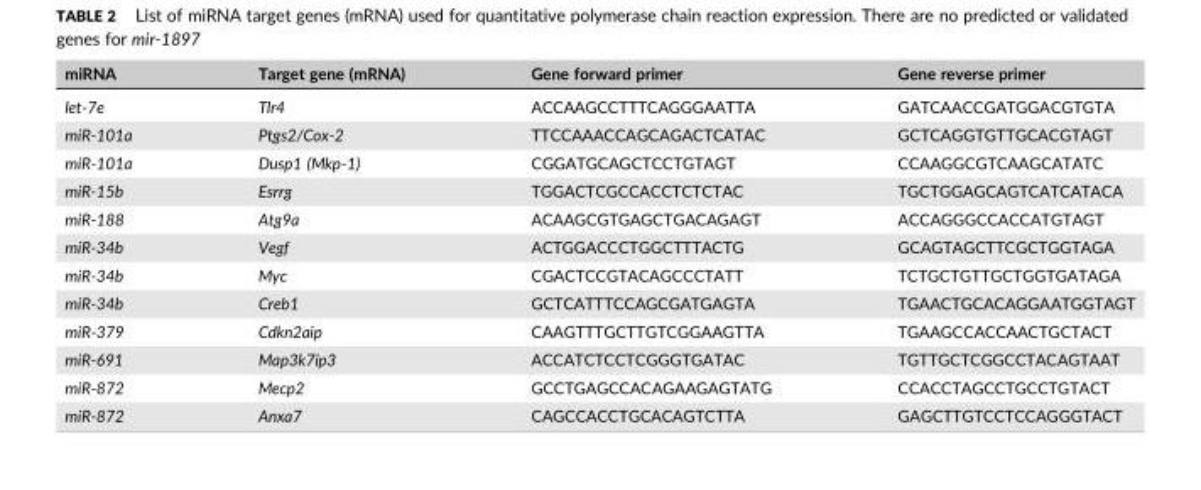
<table><thead><tr><td>miRNA</td><td>Target gene (mRNA)</td><td>Gene forward primer</td><td>Gene reverse primer</td></tr></thead><tbody><tr><td>let‐7e</td><td>Tlr4</td><td>ACCAAGCCTTTCAGGGAATTA</td><td>GATCAACCGATGGACGTGTA</td></tr><tr><td>miR‐101a</td><td>Ptgs2/Cox‐2</td><td>TTCCAAACCAGCAGACTCATAC</td><td>GCTCAGGTGTTGCACGTAGT</td></tr><tr><td>miR‐101a</td><td>Dusp1 (Mkp‐1)</td><td>CGGATGCAGCTCCTGTAGT</td><td>CCAAGGCGTCAAGCATATC</td></tr><tr><td>miR‐15b</td><td>Esrrg</td><td>TGGACTCGCCACCTCTCTAC</td><td>TGCTGGAGCAGTCATCATACA</td></tr><tr><td>miR‐188</td><td>Atg9a</td><td>ACAAGCGTGAGCTGACAGAGT</td><td>ACCAGGGCCACCATGTAGT</td></tr><tr><td>miR‐34b</td><td>Vegf</td><td>ACTGGACCCTGGCTTTACTG</td><td>GCAGTAGCTTCGCTGGTAGA</td></tr><tr><td>miR‐34b</td><td>Myc</td><td>CGACTCCGTACAGCCCTATT</td><td>TCTGCTGTTGCTGGTGATAGA</td></tr><tr><td>miR‐34b</td><td>Creb1</td><td>GCTCATTTCCAGCGATGAGTA</td><td>TGAACTGCACAGGAATGGTAGT</td></tr><tr><td>miR‐379</td><td>Cdkn2aip</td><td>CAAGTTTGCTTGTCGGAAGTTA</td><td>TGAAGCCACCAACTGCTACT</td></tr><tr><td>miR‐691</td><td>Map3k7ip3</td><td>ACCATCTCCTCGGGTGATAC</td><td>TGTTGCTCGGCCTACAGTAAT</td></tr><tr><td>miR‐872</td><td>Mecp2</td><td>GCCTGAGCCACAGAAGAGTATG</td><td>CCACCTAGCCTGCCTGTACT</td></tr><tr><td>miR‐872</td><td>Anxa7</td><td>CAGCCACCTGCACAGTCTTA</td><td>GAGCTTGTCCTCCAGGGTACT</td></tr></tbody></table>